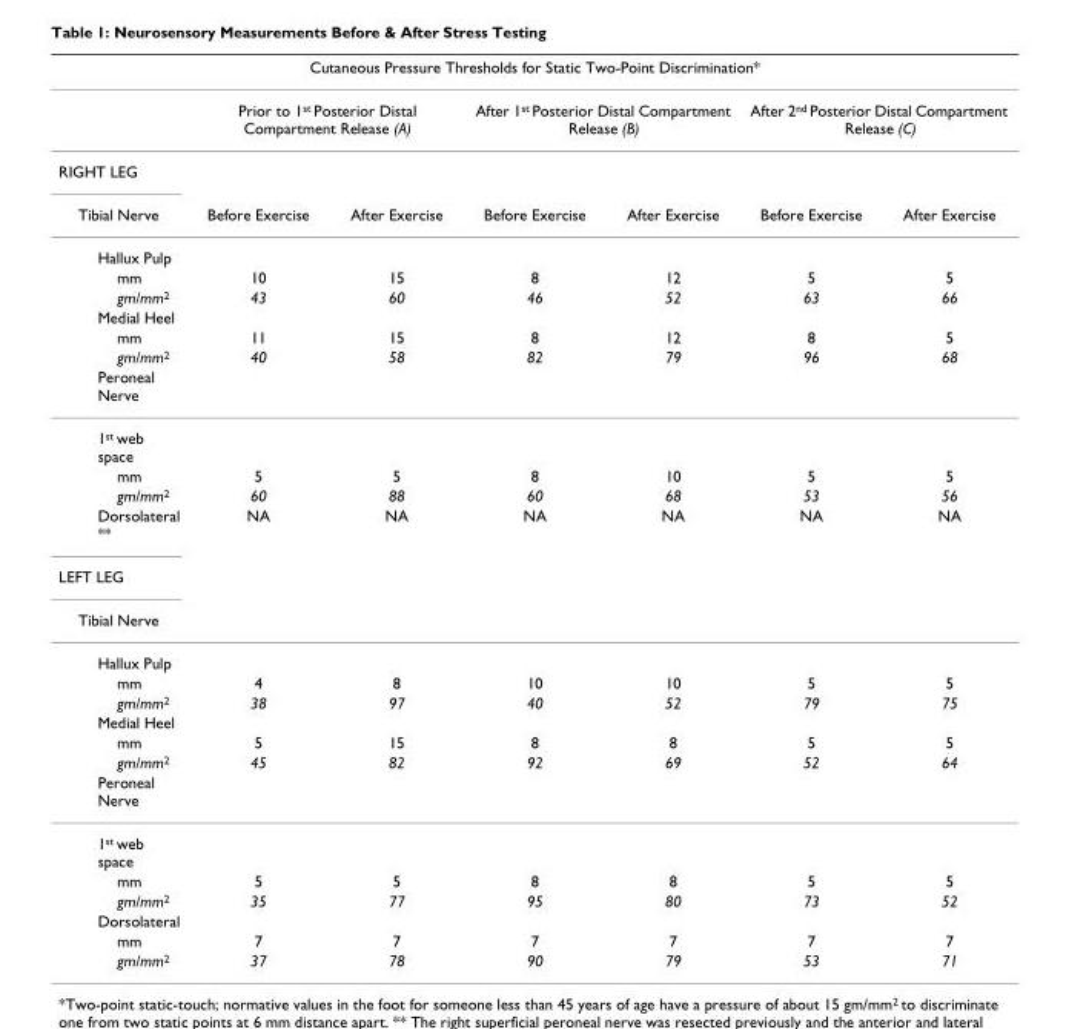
<table><thead><tr><td colspan="7">Cutaneous Pressure Thresholds for Static Two-Point Discrimination*</td></tr><tr><td rowspan="2">RIGHT LEG</td><td colspan="2">Prior to 1<sup>st</sup> Posterior Distal Compartment Release (A)</td><td colspan="2">After 1<sup>st</sup> Posterior Distal Compartment Release (B)</td><td colspan="2">After 2<sup>nd</sup> Posterior Distal Compartment Release (C)</td></tr><tr><td></td><td></td><td></td><td></td><td></td><td></td></tr></thead><tbody><tr><td>Tibial Nerve</td><td>Before Exercise</td><td>After Exercise</td><td>Before Exercise</td><td>After Exercise</td><td>Before Exercise</td><td>After Exercise</td></tr><tr><td colspan="7">Hallux Pulp</td></tr><tr><td>mm</td><td>10</td><td>15</td><td>8</td><td>12</td><td>5</td><td>5</td></tr><tr><td>gm/mm<sup>2</sup></td><td>43</td><td>60</td><td>46</td><td>52</td><td>63</td><td>66</td></tr><tr><td colspan="7">Medial Heel</td></tr><tr><td>mm</td><td>11</td><td>15</td><td>8</td><td>12</td><td>8</td><td>5</td></tr><tr><td>gm/mm<sup>2</sup></td><td>40</td><td>58</td><td>82</td><td>79</td><td>96</td><td>68</td></tr><tr><td colspan="7">Peroneal Nerve</td></tr><tr><td colspan="7">1<sup>st</sup> web space</td></tr><tr><td>mm</td><td>5</td><td>5</td><td>8</td><td>10</td><td>5</td><td>5</td></tr><tr><td>gm/mm<sup>2</sup></td><td>60</td><td>88</td><td>60</td><td>68</td><td>53</td><td>56</td></tr><tr><td>Dorsolateral **</td><td>NA</td><td>NA</td><td>NA</td><td>NA</td><td>NA</td><td>NA</td></tr><tr><td colspan="7">LEFT LEG</td></tr><tr><td colspan="7">Tibial Nerve</td></tr><tr><td colspan="7">Hallux Pulp</td></tr><tr><td>mm</td><td>4</td><td>8</td><td>10</td><td>10</td><td>5</td><td>5</td></tr><tr><td>gm/mm<sup>2</sup></td><td>38</td><td>97</td><td>40</td><td>52</td><td>79</td><td>75</td></tr><tr><td colspan="7">Medial Heel</td></tr><tr><td>mm</td><td>5</td><td>15</td><td>8</td><td>8</td><td>5</td><td>5</td></tr><tr><td>gm/mm<sup>2</sup></td><td>45</td><td>82</td><td>92</td><td>69</td><td>52</td><td>64</td></tr><tr><td colspan="7">Peroneal Nerve</td></tr><tr><td colspan="7">1<sup>st</sup> web space</td></tr><tr><td>mm</td><td>5</td><td>5</td><td>8</td><td>8</td><td>5</td><td>5</td></tr><tr><td>gm/mm<sup>2</sup></td><td>35</td><td>77</td><td>95</td><td>80</td><td>73</td><td>52</td></tr><tr><td colspan="7">Dorsolateral</td></tr><tr><td>mm</td><td>7</td><td>7</td><td>7</td><td>7</td><td>7</td><td>7</td></tr><tr><td>gm/mm<sup>2</sup></td><td>37</td><td>78</td><td>90</td><td>79</td><td>53</td><td>71</td></tr></tbody></table>